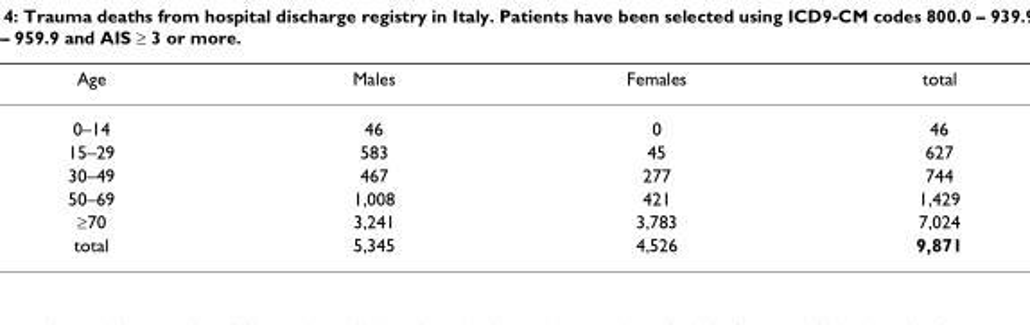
<table><thead><tr><td>Age</td><td>Males</td><td>Females</td><td>total</td></tr></thead><tbody><tr><td>0–14</td><td>46</td><td>0</td><td>46</td></tr><tr><td>15–29</td><td>583</td><td>45</td><td>627</td></tr><tr><td>30–49</td><td>467</td><td>277</td><td>744</td></tr><tr><td>50–69</td><td>1,008</td><td>421</td><td>1,429</td></tr><tr><td>≥70</td><td>3,241</td><td>3,783</td><td>7,024</td></tr><tr><td>total</td><td>5,345</td><td>4,526</td><td>9,871</td></tr></tbody></table>